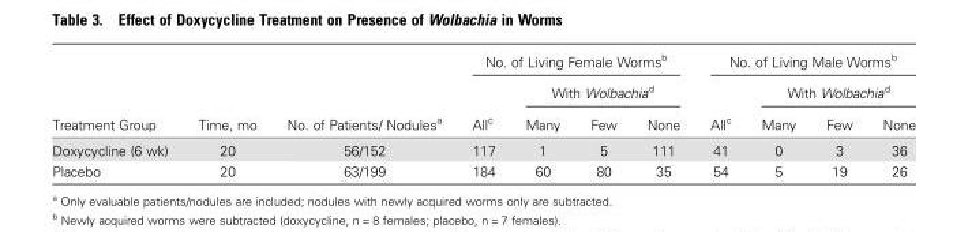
<table><thead><tr><td rowspan="3">Treatment Group</td><td rowspan="3">Time, mo</td><td rowspan="3">No. of Patients/ Nodules<sup>a</sup></td><td colspan="4">No. of Living Female Worms<sup>b</sup></td><td colspan="4">No. of Living Male Worms<sup>b</sup></td></tr><tr><td rowspan="2">All<sup>c</sup></td><td colspan="3">With Wolbachia<sup>d</sup></td><td rowspan="2">All<sup>c</sup></td><td colspan="3">With Wolbachia<sup>d</sup></td></tr><tr><td>Many</td><td>Few</td><td>None</td><td>Many</td><td>Few</td><td>None</td></tr></thead><tbody><tr><td>Doxycycline (6 wk)</td><td>20</td><td>56/152</td><td>117</td><td>1</td><td>5</td><td>111</td><td>41</td><td>0</td><td>3</td><td>36</td></tr><tr><td>Placebo</td><td>20</td><td>63/199</td><td>184</td><td>60</td><td>80</td><td>35</td><td>54</td><td>5</td><td>19</td><td>26</td></tr></tbody></table>